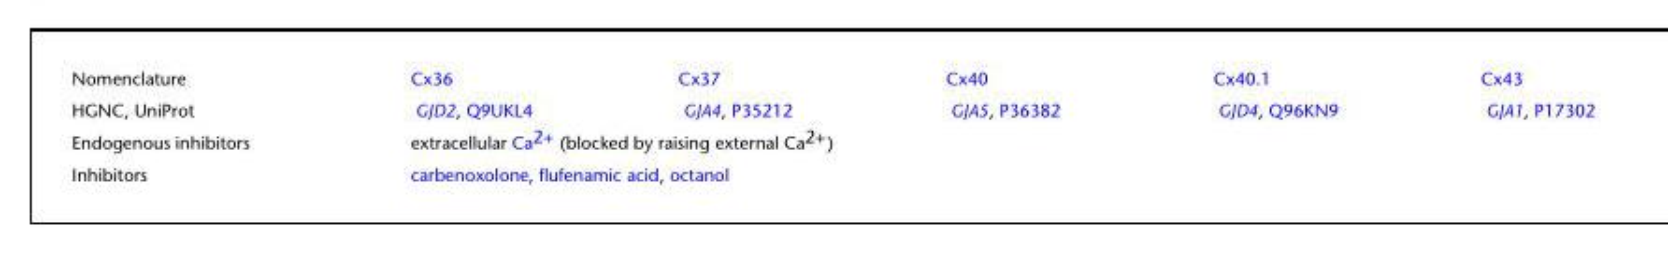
<table><tbody><tr><td>Nomenclature</td><td>Cx36</td><td>Cx37</td><td>Cx40</td><td>Cx40.1</td><td>Cx43</td></tr><tr><td>HGNC, UniProt</td><td>GJD2, Q9UKL4</td><td>GJA4, P35212</td><td>GJA5, P36382</td><td>GJD4, Q96KN9</td><td>GJA1, P17302</td></tr><tr><td>Endogenous inhibitors</td><td colspan="4">extracellular Ca<sup>2+</sup> (blocked by raising external Ca<sup>2+</sup>)</td><td></td></tr><tr><td>Inhibitors</td><td colspan="4">carbenoxolone, flufenamic acid, octanol</td><td></td></tr></tbody></table>